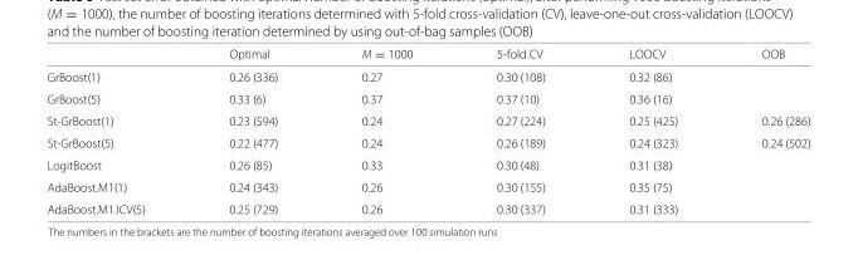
<table><thead><tr><td></td><td>Optimal</td><td>M = 1000</td><td>5-fold CV</td><td>LOOCV</td><td>OOB</td></tr></thead><tbody><tr><td>GrBoost(1)</td><td>0.26 (336)</td><td>0.27</td><td>0.30 (108)</td><td>0.32 (86)</td><td></td></tr><tr><td>GrBoost(5)</td><td>0.33 (6)</td><td>0.37</td><td>0.37 (10)</td><td>0.36 (16)</td><td></td></tr><tr><td>St-GrBoost(1)</td><td>0.23 (594)</td><td>0.24</td><td>0.27 (224)</td><td>0.25 (425)</td><td>0.26 (286)</td></tr><tr><td>St-GrBoost(5)</td><td>0.22 (477)</td><td>0.24</td><td>0.26 (189)</td><td>0.24 (323)</td><td>0.24 (502)</td></tr><tr><td>LogitBoost</td><td>0.26 (85)</td><td>0.33</td><td>0.30 (48)</td><td>0.31 (38)</td><td></td></tr><tr><td>AdaBoost.M1(1)</td><td>0.24 (343)</td><td>0.26</td><td>0.30 (155)</td><td>0.35 (75)</td><td></td></tr><tr><td>AdaBoost.M1.ICV(5)</td><td>0.25 (729)</td><td>0.26</td><td>0.30 (337)</td><td>0.31 (333)</td><td></td></tr></tbody></table>